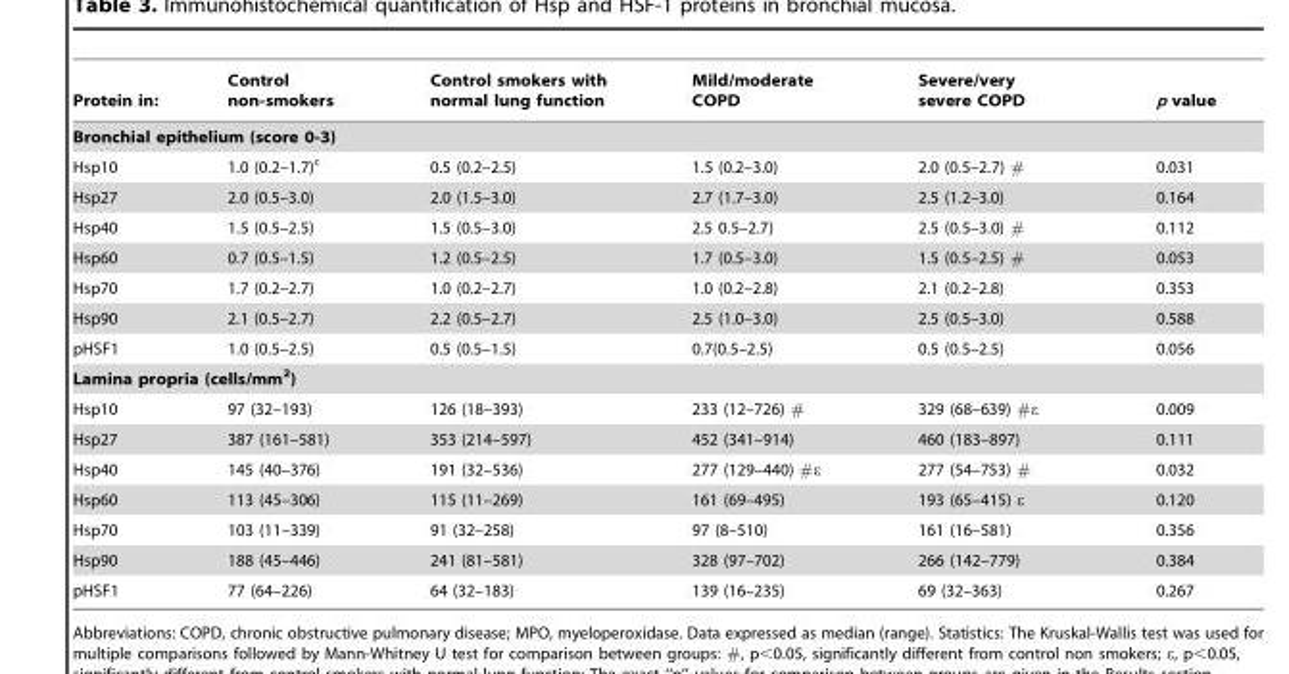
<table><thead><tr><td>Protein in:</td><td>Control non-smokers</td><td>Control smokers with normal lung function</td><td>Mild/moderate COPD</td><td>Severe/very severe COPD</td><td>p value</td></tr></thead><tbody><tr><td colspan="6">Bronchial epithelium (score 0-3)</td></tr><tr><td>Hsp10</td><td>1.0 (0.2–1.7)<sup>c</sup></td><td>0.5 (0.2–2.5)</td><td>1.5 (0.2–3.0)</td><td>2.0 (0.5–2.7) #</td><td>0.031</td></tr><tr><td>Hsp27</td><td>2.0 (0.5–3.0)</td><td>2.0 (1.5–3.0)</td><td>2.7 (1.7–3.0)</td><td>2.5 (1.2–3.0)</td><td>0.164</td></tr><tr><td>Hsp40</td><td>1.5 (0.5–2.5)</td><td>1.5 (0.5–3.0)</td><td>2.5 0.5–2.7)</td><td>2.5 (0.5–3.0) #</td><td>0.112</td></tr><tr><td>Hsp60</td><td>0.7 (0.5–1.5)</td><td>1.2 (0.5–2.5)</td><td>1.7 (0.5–3.0)</td><td>1.5 (0.5–2.5) #</td><td>0.053</td></tr><tr><td>Hsp70</td><td>1.7 (0.2–2.7)</td><td>1.0 (0.2–2.7)</td><td>1.0 (0.2–2.8)</td><td>2.1 (0.2–2.8)</td><td>0.353</td></tr><tr><td>Hsp90</td><td>2.1 (0.5–2.7)</td><td>2.2 (0.5–2.7)</td><td>2.5 (1.0–3.0)</td><td>2.5 (0.5–3.0)</td><td>0.588</td></tr><tr><td>pHSF1</td><td>1.0 (0.5–2.5)</td><td>0.5 (0.5–1.5)</td><td>0.7(0.5–2.5)</td><td>0.5 (0.5–2.5)</td><td>0.056</td></tr><tr><td colspan="6">Lamina propria (cells/mm<sup>2</sup>)</td></tr><tr><td>Hsp10</td><td>97 (32–193)</td><td>126 (18–393)</td><td>233 (12–726) #</td><td>329 (68–639) #ε</td><td>0.009</td></tr><tr><td>Hsp27</td><td>387 (161–581)</td><td>353 (214–597)</td><td>452 (341–914)</td><td>460 (183–897)</td><td>0.111</td></tr><tr><td>Hsp40</td><td>145 (40–376)</td><td>191 (32–536)</td><td>277 (129–440) #ε</td><td>277 (54–753) #</td><td>0.032</td></tr><tr><td>Hsp60</td><td>113 (45–306)</td><td>115 (11–269)</td><td>161 (69–495)</td><td>193 (65–415) ε</td><td>0.120</td></tr><tr><td>Hsp70</td><td>103 (11–339)</td><td>91 (32–258)</td><td>97 (8–510)</td><td>161 (16–581)</td><td>0.356</td></tr><tr><td>Hsp90</td><td>188 (45–446)</td><td>241 (81–581)</td><td>328 (97–702)</td><td>266 (142–779)</td><td>0.384</td></tr><tr><td>pHSF1</td><td>77 (64–226)</td><td>64 (32–183)</td><td>139 (16–235)</td><td>69 (32–363)</td><td>0.267</td></tr></tbody></table>